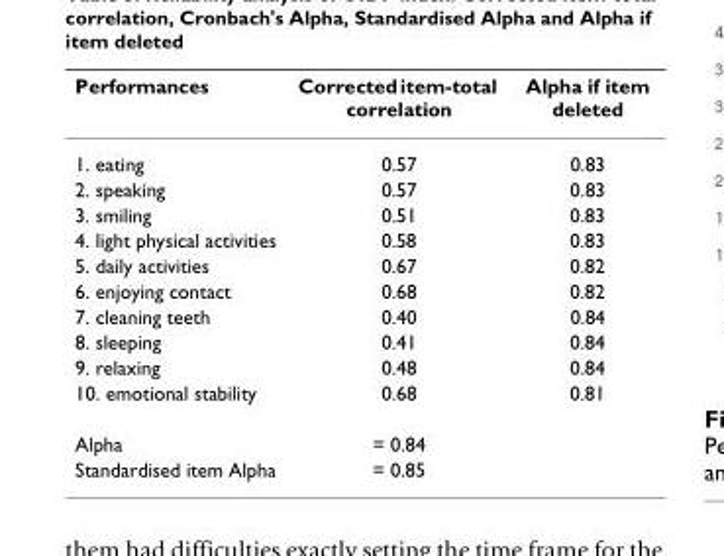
<table><thead><tr><td>Performances</td><td>Corrected item-total correlation</td><td>Alpha if item deleted</td></tr></thead><tbody><tr><td>1. eating</td><td>0.57</td><td>0.83</td></tr><tr><td>2. speaking</td><td>0.57</td><td>0.83</td></tr><tr><td>3. smiling</td><td>0.51</td><td>0.83</td></tr><tr><td>4. light physical activities</td><td>0.58</td><td>0.83</td></tr><tr><td>5. daily activities</td><td>0.67</td><td>0.82</td></tr><tr><td>6. enjoying contact</td><td>0.68</td><td>0.82</td></tr><tr><td>7. cleaning teeth</td><td>0.40</td><td>0.84</td></tr><tr><td>8. sleeping</td><td>0.41</td><td>0.84</td></tr><tr><td>9. relaxing</td><td>0.48</td><td>0.84</td></tr><tr><td>10. emotional stability</td><td>0.68</td><td>0.81</td></tr><tr><td>Alpha</td><td>= 0.84</td><td></td></tr><tr><td>Standardised item Alpha</td><td>= 0.85</td><td></td></tr></tbody></table>